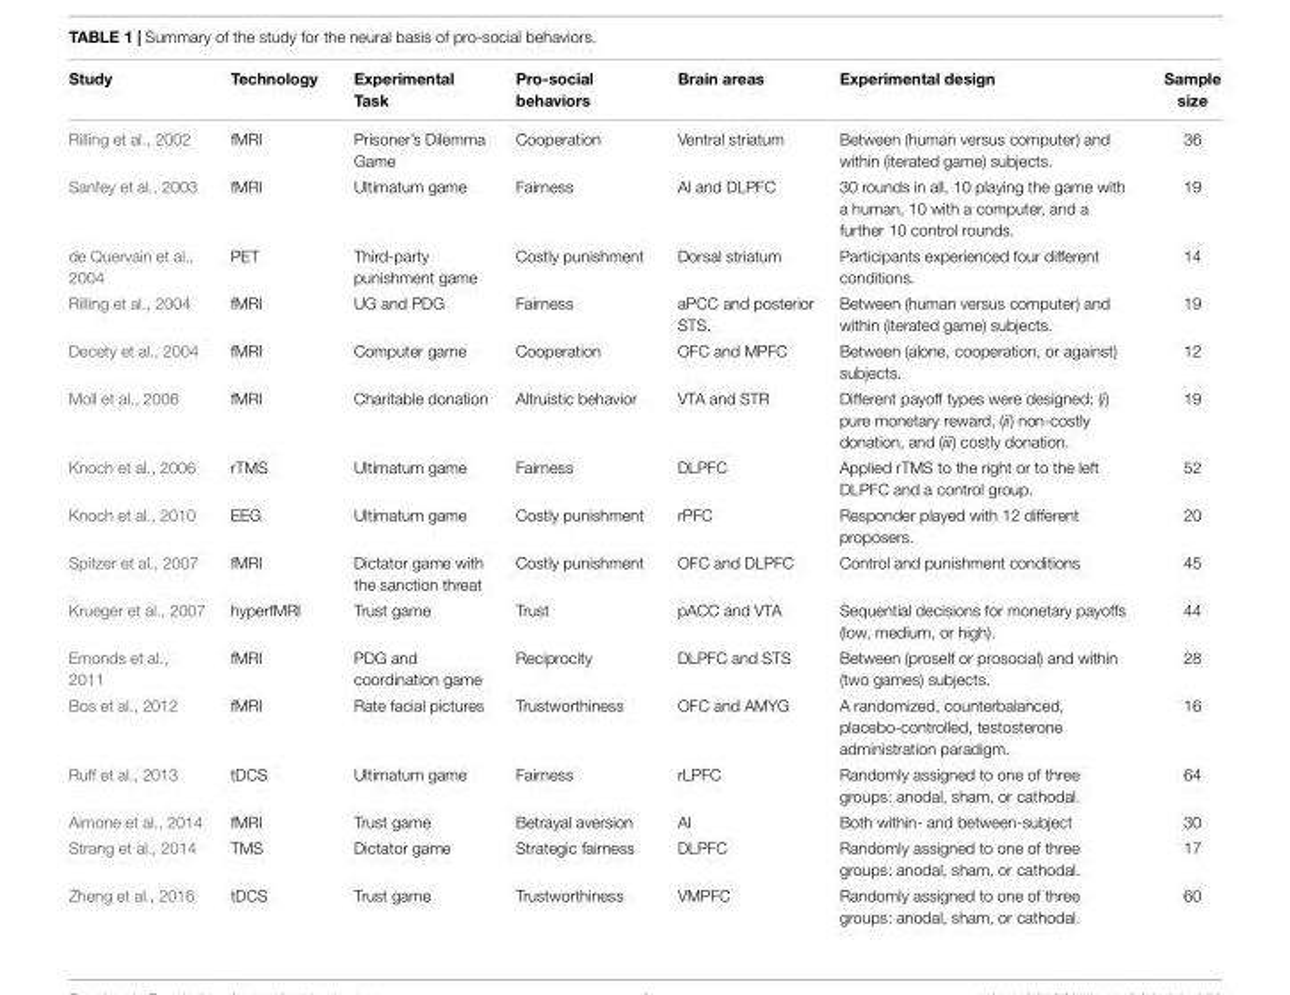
<table><thead><tr><td>Study</td><td>Technology</td><td>Experimental Task</td><td>Pro-social behaviors</td><td>Brain areas</td><td>Experimental design</td><td>Sample size</td></tr></thead><tbody><tr><td>Rilling et al., 2002</td><td>fMRI</td><td>Prisoner’s Dilemma Game</td><td>Cooperation</td><td>Ventral striatum</td><td>Between (human versus computer) and within (iterated game) subjects.</td><td>36</td></tr><tr><td>Sanfey et al., 2003</td><td>fMRI</td><td>Ultimatum game</td><td>Fairness</td><td>AI and DLPFC</td><td>30 rounds in all, 10 playing the game with a human, 10 with a computer, and a further 10 control rounds.</td><td>19</td></tr><tr><td>de Quervain et al., 2004</td><td>PET</td><td>Third-party punishment game</td><td>Costly punishment</td><td>Dorsal striatum</td><td>Participants experienced four different conditions.</td><td>14</td></tr><tr><td>Rilling et al., 2004</td><td>fMRI</td><td>UG and PDG</td><td>Fairness</td><td>aPCC and posterior STS.</td><td>Between (human versus computer) and within (iterated game) subjects.</td><td>19</td></tr><tr><td>Decety et al., 2004</td><td>fMRI</td><td>Computer game</td><td>Cooperation</td><td>OFC and MPFC</td><td>Between (alone, cooperation, or against) subjects.</td><td>12</td></tr><tr><td>Moll et al., 2006</td><td>fMRI</td><td>Charitable donation</td><td>Altruistic behavior</td><td>VTA and STR</td><td>Different payoff types were designed: (i) pure monetary reward, (ii) non-costly donation, and (iii) costly donation.</td><td>19</td></tr><tr><td>Knoch et al., 2006</td><td>rTMS</td><td>Ultimatum game</td><td>Fairness</td><td>DLPFC</td><td>Applied rTMS to the right or to the left DLPFC and a control group.</td><td>52</td></tr><tr><td>Knoch et al., 2010</td><td>EEG</td><td>Ultimatum game</td><td>Costly punishment</td><td>rPFC</td><td>Responder played with 12 different proposers.</td><td>20</td></tr><tr><td>Spitzer et al., 2007</td><td>fMRI</td><td>Dictator game with the sanction threat</td><td>Costly punishment</td><td>OFC and DLPFC</td><td>Control and punishment conditions</td><td>45</td></tr><tr><td>Krueger et al., 2007</td><td>hyperfMRI</td><td>Trust game</td><td>Trust</td><td>pACC and VTA</td><td>Sequential decisions for monetary payoffs (low, medium, or high).</td><td>44</td></tr><tr><td>Emonds et al., 2011</td><td>fMRI</td><td>PDG and coordination game</td><td>Reciprocity</td><td>DLPFC and STS</td><td>Between (proself or prosocial) and within (two games) subjects.</td><td>28</td></tr><tr><td>Bos et al., 2012</td><td>fMRI</td><td>Rate facial pictures</td><td>Trustworthiness</td><td>OFC and AMYG</td><td>A randomized, counterbalanced, placebo-controlled, testosterone administration paradigm.</td><td>16</td></tr><tr><td>Ruff et al., 2013</td><td>tDCS</td><td>Ultimatum game</td><td>Fairness</td><td>rLPFC</td><td>Randomly assigned to one of three groups: anodal, sham, or cathodal.</td><td>64</td></tr><tr><td>Aimone et al., 2014</td><td>fMRI</td><td>Trust game</td><td>Betrayal aversion</td><td>AI</td><td>Both within- and between-subject</td><td>30</td></tr><tr><td>Strang et al., 2014</td><td>TMS</td><td>Dictator game</td><td>Strategic fairness</td><td>DLPFC</td><td>Randomly assigned to one of three groups: anodal, sham, or cathodal.</td><td>17</td></tr><tr><td>Zheng et al., 2016</td><td>tDCS</td><td>Trust game</td><td>Trustworthiness</td><td>VMPFC</td><td>Randomly assigned to one of three groups: anodal, sham, or cathodal.</td><td>60</td></tr></tbody></table>